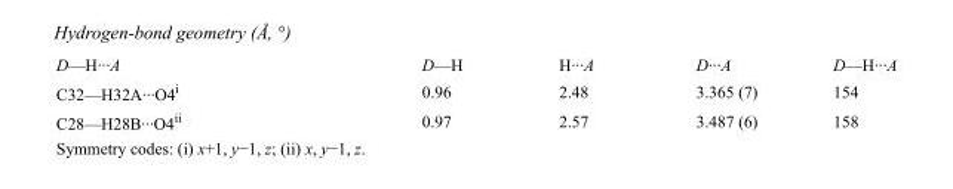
<table><tbody><tr><td>D—H···A</td><td>D—H</td><td>H···A</td><td>D···A</td><td>D—H···A</td></tr><tr><td>C32—H32A···O4<sup>i</sup></td><td>0.96</td><td>2.48</td><td>3.365 (7)</td><td>154</td></tr><tr><td>C28—H28B···O4<sup>ii</sup></td><td>0.97</td><td>2.57</td><td>3.487 (6)</td><td>158</td></tr></tbody></table>